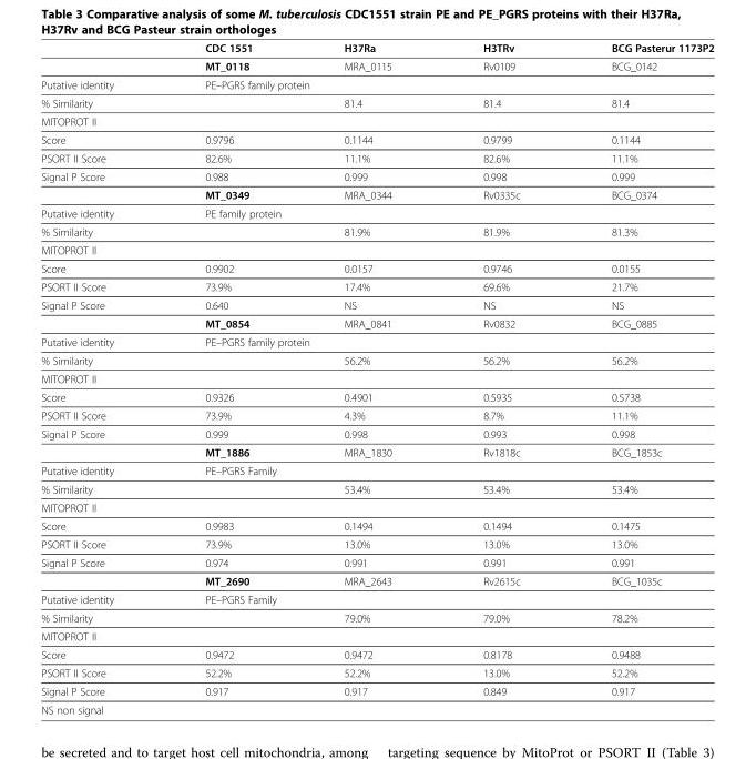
<table><thead><tr><td></td><td>CDC 1551</td><td>H37Ra</td><td>H3TRv</td><td>BCG Pasterur 1173P2</td></tr></thead><tbody><tr><td></td><td>MT_0118</td><td>MRA_0115</td><td>Rv0109</td><td>BCG_0142</td></tr><tr><td>Putative identity</td><td colspan="4">PE–PGRS family protein</td></tr><tr><td>% Similarity</td><td></td><td>81.4</td><td>81.4</td><td>81.4</td></tr><tr><td colspan="5">MITOPROT II</td></tr><tr><td>Score</td><td>0.9796</td><td>0.1144</td><td>0.9799</td><td>0.1144</td></tr><tr><td>PSORT II Score</td><td>82.6%</td><td>11.1%</td><td>82.6%</td><td>11.1%</td></tr><tr><td rowspan="2">Signal P Score</td><td>0.988</td><td>0.999</td><td>0.998</td><td>0.999</td></tr><tr><td>MT_0349</td><td>MRA_0344</td><td>Rv0335c</td><td>BCG_0374</td></tr><tr><td>Putative identity</td><td colspan="4">PE family protein</td></tr><tr><td>% Similarity</td><td></td><td>81.9%</td><td>81.9%</td><td>81.3%</td></tr><tr><td colspan="5">MITOPROT II</td></tr><tr><td>Score</td><td>0.9902</td><td>0.0157</td><td>0.9746</td><td>0.0155</td></tr><tr><td>PSORT II Score</td><td>73.9%</td><td>17.4%</td><td>69.6%</td><td>21.7%</td></tr><tr><td rowspan="2">Signal P Score</td><td>0.640</td><td>NS</td><td>NS</td><td>NS</td></tr><tr><td>MT_0854</td><td>MRA_0841</td><td>Rv0832</td><td>BCG_0885</td></tr><tr><td>Putative identity</td><td colspan="4">PE–PGRS family protein</td></tr><tr><td>% Similarity</td><td></td><td>56.2%</td><td>56.2%</td><td>56.2%</td></tr><tr><td colspan="5">MITOPROT II</td></tr><tr><td>Score</td><td>0.9326</td><td>0.4901</td><td>0.5935</td><td>0.5738</td></tr><tr><td>PSORT II Score</td><td>73.9%</td><td>4.3%</td><td>8.7%</td><td>11.1%</td></tr><tr><td rowspan="2">Signal P Score</td><td>0.999</td><td>0.998</td><td>0.993</td><td>0.998</td></tr><tr><td>MT_1886</td><td>MRA_1830</td><td>Rv1818c</td><td>BCG_1853c</td></tr><tr><td>Putative identity</td><td colspan="4">PE–PGRS Family</td></tr><tr><td>% Similarity</td><td></td><td>53.4%</td><td>53.4%</td><td>53.4%</td></tr><tr><td colspan="5">MITOPROT II</td></tr><tr><td>Score</td><td>0.9983</td><td>0.1494</td><td>0.1494</td><td>0.1475</td></tr><tr><td>PSORT II Score</td><td>73.9%</td><td>13.0%</td><td>13.0%</td><td>13.0%</td></tr><tr><td rowspan="2">Signal P Score</td><td>0.974</td><td>0.991</td><td>0.991</td><td>0.991</td></tr><tr><td>MT_2690</td><td>MRA_2643</td><td>Rv2615c</td><td>BCG_1035c</td></tr><tr><td>Putative identity</td><td colspan="4">PE–PGRS Family</td></tr><tr><td>% Similarity</td><td></td><td>79.0%</td><td>79.0%</td><td>78.2%</td></tr><tr><td colspan="5">MITOPROT II</td></tr><tr><td>Score</td><td>0.9472</td><td>0.9472</td><td>0.8178</td><td>0.9488</td></tr><tr><td>PSORT II Score</td><td>52.2%</td><td>52.2%</td><td>13.0%</td><td>52.2%</td></tr><tr><td>Signal P Score</td><td>0.917</td><td>0.917</td><td>0.849</td><td>0.917</td></tr><tr><td>NS non signal</td><td></td><td></td><td></td><td></td></tr></tbody></table>